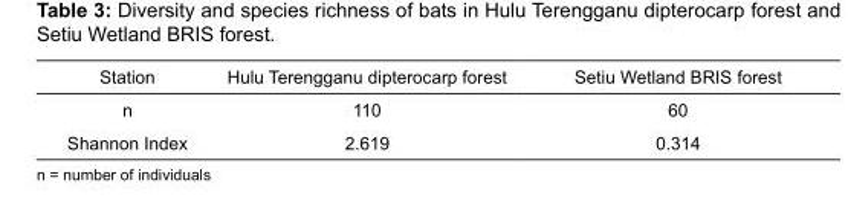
<table><thead><tr><td>Station</td><td>Hulu Terengganu dipterocarp forest</td><td>Setiu Wetland BRIS forest</td></tr></thead><tbody><tr><td>n</td><td>110</td><td>60</td></tr><tr><td>Shannon Index</td><td>2.619</td><td>0.314</td></tr></tbody></table>